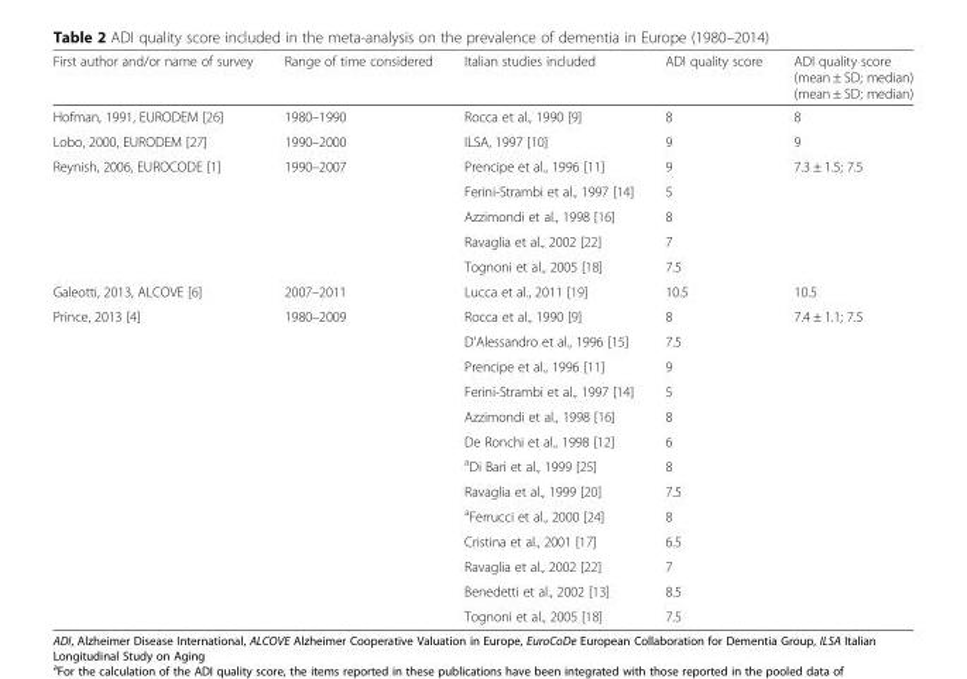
<table><thead><tr><td>First author and/or name of survey</td><td>Range of time considered</td><td>Italian studies included</td><td>ADI quality score</td><td>ADI quality score (mean ± SD; median) (mean ± SD; median)</td></tr></thead><tbody><tr><td>Hofman, 1991, EURODEM [26]</td><td>1980–1990</td><td>Rocca et al., 1990 [9]</td><td>8</td><td>8</td></tr><tr><td>Lobo, 2000, EURODEM [27]</td><td>1990–2000</td><td>ILSA, 1997 [10]</td><td>9</td><td>9</td></tr><tr><td rowspan="5">Reynish, 2006, EUROCODE [1]</td><td rowspan="5">1990–2007</td><td>Prencipe et al., 1996 [11]</td><td>9</td><td rowspan="5">7.3 ± 1.5; 7.5</td></tr><tr><td>Ferini-Strambi et al., 1997 [14]</td><td>5</td></tr><tr><td>Azzimondi et al., 1998 [16]</td><td>8</td></tr><tr><td>Ravaglia et al., 2002 [22]</td><td>7</td></tr><tr><td>Tognoni et al., 2005 [18]</td><td>7.5</td></tr><tr><td>Galeotti, 2013, ALCOVE [6]</td><td>2007–2011</td><td>Lucca et al., 2011 [19]</td><td>10.5</td><td>10.5</td></tr><tr><td rowspan="13">Prince, 2013 [4]</td><td rowspan="13">1980–2009</td><td>Rocca et al., 1990 [9]</td><td>8</td><td rowspan="13">7.4 ± 1.1; 7.5</td></tr><tr><td>D’Alessandro et al., 1996 [15]</td><td>7.5</td></tr><tr><td>Prencipe et al., 1996 [11]</td><td>9</td></tr><tr><td>Ferini-Strambi et al., 1997 [14]</td><td>5</td></tr><tr><td>Azzimondi et al., 1998 [16]</td><td>8</td></tr><tr><td>De Ronchi et al., 1998 [12]</td><td>6</td></tr><tr><td><sup>a</sup>Di Bari et al., 1999 [25]</td><td>8</td></tr><tr><td>Ravaglia et al., 1999 [20]</td><td>7.5</td></tr><tr><td><sup>a</sup>Ferrucci et al., 2000 [24]</td><td>8</td></tr><tr><td>Cristina et al., 2001 [17]</td><td>6.5</td></tr><tr><td>Ravaglia et al., 2002 [22]</td><td>7</td></tr><tr><td>Benedetti et al., 2002 [13]</td><td>8.5</td></tr><tr><td>Tognoni et al., 2005 [18]</td><td>7.5</td></tr></tbody></table>